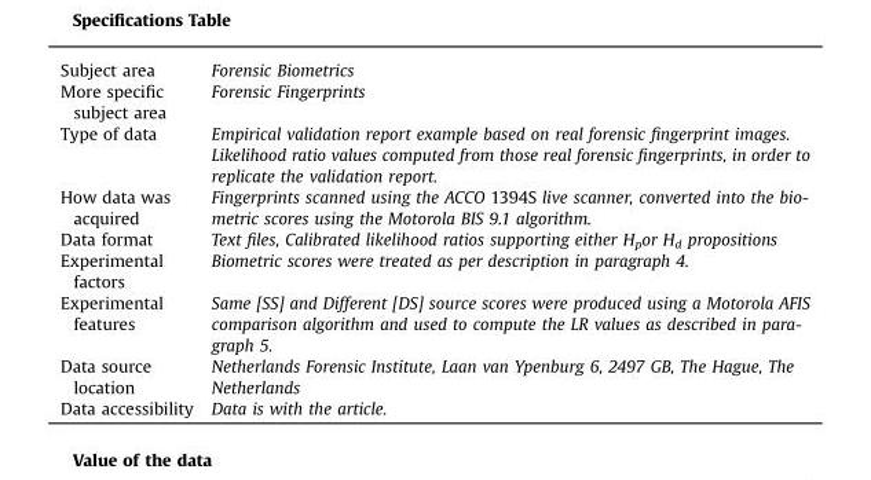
<table><tbody><tr><td>Subject area</td><td>Forensic Biometrics</td></tr><tr><td>More specific subject area</td><td>Forensic Fingerprints</td></tr><tr><td>Type of data</td><td>Empirical validation report example based on real forensic fingerprint images. Likelihood ratio values computed from those real forensic fingerprints, in order to replicate the validation report.</td></tr><tr><td>How data was acquired</td><td>Fingerprints scanned using the ACCO 1394S live scanner, converted into the bio- metric scores using the Motorola BIS 9.1 algorithm.</td></tr><tr><td>Data format</td><td>Text files, Calibrated likelihood ratios supporting either H<sub>p</sub>or H<sub>d</sub> propositions</td></tr><tr><td>Experimental factors</td><td>Biometric scores were treated as per description in paragraph 4.</td></tr><tr><td>Experimental features</td><td>Same [SS] and Different [DS] source scores were produced using a Motorola AFIS comparison algorithm and used to compute the LR values as described in para- graph 5.</td></tr><tr><td>Data source location</td><td>Netherlands Forensic Institute, Laan van Ypenburg 6, 2497 GB, The Hague, The Netherlands</td></tr><tr><td>Data accessibility</td><td>Data is with the article.</td></tr></tbody></table>